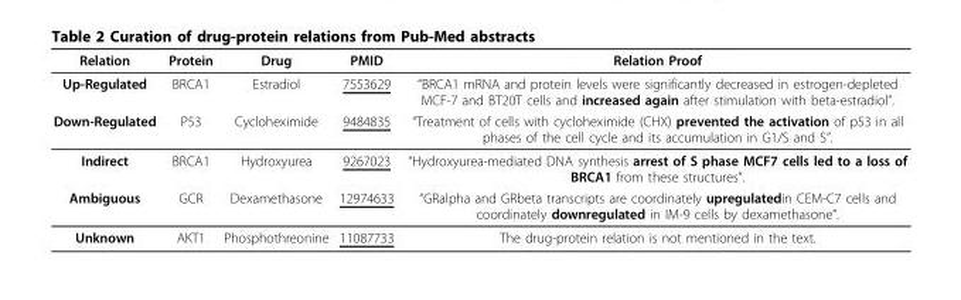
<table><thead><tr><td>Relation</td><td>Protein</td><td>Drug</td><td>PMID</td><td>Relation Proof</td></tr></thead><tbody><tr><td>Up-Regulated</td><td>BRCA1</td><td>Estradiol</td><td>7553629</td><td>“BRCA1 mRNA and protein levels were significantly decreased in estrogen-depleted MCF-7 and BT20T cells and increased again after stimulation with beta-estradiol”.</td></tr><tr><td>Down-Regulated</td><td>P53</td><td>Cycloheximide</td><td>9484835</td><td>“Treatment of cells with cycloheximide (CHX) prevented the activation of p53 in all phases of the cell cycle and its accumulation in G1/S and S”.</td></tr><tr><td>Indirect</td><td>BRCA1</td><td>Hydroxyurea</td><td>9267023</td><td>“Hydroxyurea-mediated DNA synthesis arrest of S phase MCF7 cells led to a loss of BRCA1 from these structures”.</td></tr><tr><td>Ambiguous</td><td>GCR</td><td>Dexamethasone</td><td>12974633</td><td>“GRalpha and GRbeta transcripts are coordinately upregulatedin CEM-C7 cells and coordinately downregulated in IM-9 cells by dexamethasone”.</td></tr><tr><td>Unknown</td><td>AKT1</td><td>Phosphothreonine</td><td>11087733</td><td>The drug-protein relation is not mentioned in the text.</td></tr></tbody></table>